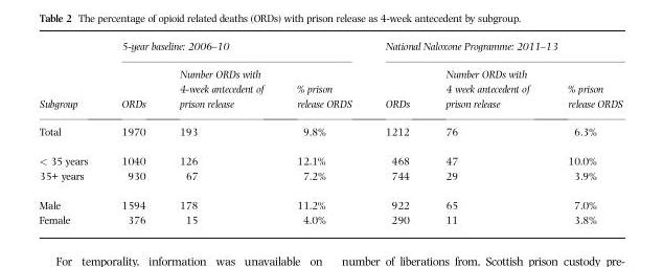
<table><thead><tr><td rowspan="2">Subgroup</td><td colspan="3">5-year baseline: 2006–10</td><td colspan="3">National Naloxone Programme: 2011–13</td></tr><tr><td>ORDs</td><td>Number ORDs with 4-week antecedent of prison release</td><td>% prison release ORDS</td><td>ORDs</td><td>Number ORDs with 4 week antecedent of prison release</td><td>% prison release ORDS</td></tr></thead><tbody><tr><td>Total</td><td>1970</td><td>193</td><td>9.8%</td><td>1212</td><td>76</td><td>6.3%</td></tr><tr><td>&lt; 35 years</td><td>1040</td><td>126</td><td>12.1%</td><td>468</td><td>47</td><td>10.0%</td></tr><tr><td>35+ years</td><td>930</td><td>67</td><td>7.2%</td><td>744</td><td>29</td><td>3.9%</td></tr><tr><td>Male</td><td>1594</td><td>178</td><td>11.2%</td><td>922</td><td>65</td><td>7.0%</td></tr><tr><td>Female</td><td>376</td><td>15</td><td>4.0%</td><td>290</td><td>11</td><td>3.8%</td></tr></tbody></table>